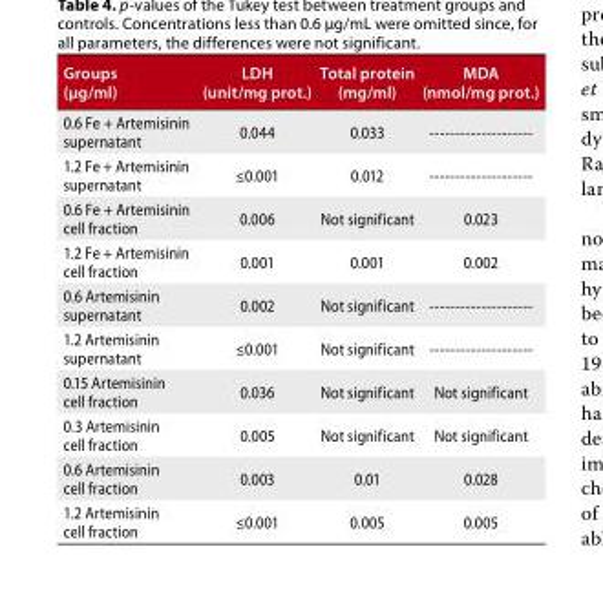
<table><thead><tr><td>Groups (μg/ml)</td><td>LDH (unit/mg prot.)</td><td>Total protein (mg/ml)</td><td>MDA (nmol/mg prot.)</td></tr></thead><tbody><tr><td>0.6 Fe + Artemisinin supernatant</td><td>0.044</td><td>0.033</td><td>--------------------</td></tr><tr><td>1.2 Fe + Artemisinin supernatant</td><td>≤0.001</td><td>0.012</td><td>--------------------</td></tr><tr><td>0.6 Fe + Artemisinin cell fraction</td><td>0.006</td><td>Not significant</td><td>0.023</td></tr><tr><td>1.2 Fe + Artemisinin cell fraction</td><td>0.001</td><td>0.001</td><td>0.002</td></tr><tr><td>0.6 Artemisinin supernatant</td><td>0.002</td><td>Not significant</td><td>--------------------</td></tr><tr><td>1.2 Artemisinin supernatant</td><td>≤0.001</td><td>Not significant</td><td>--------------------</td></tr><tr><td>0.15 Artemisinin cell fraction</td><td>0.036</td><td>Not significant</td><td>Not significant</td></tr><tr><td>0.3 Artemisinin cell fraction</td><td>0.005</td><td>Not significant</td><td>Not significant</td></tr><tr><td>0.6 Artemisinin cell fraction</td><td>0.003</td><td>0.01</td><td>0.028</td></tr><tr><td>1.2 Artemisinin cell fraction</td><td>≤0.001</td><td>0.005</td><td>0.005</td></tr></tbody></table>